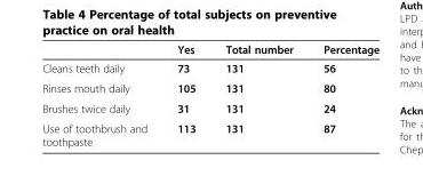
<table><thead><tr><td></td><td>Yes</td><td>Total number</td><td>Percentage</td></tr></thead><tbody><tr><td>Cleans teeth daily</td><td>73</td><td>131</td><td>56</td></tr><tr><td>Rinses mouth daily</td><td>105</td><td>131</td><td>80</td></tr><tr><td>Brushes twice daily</td><td>31</td><td>131</td><td>24</td></tr><tr><td>Use of toothbrush and toothpaste</td><td>113</td><td>131</td><td>87</td></tr></tbody></table>